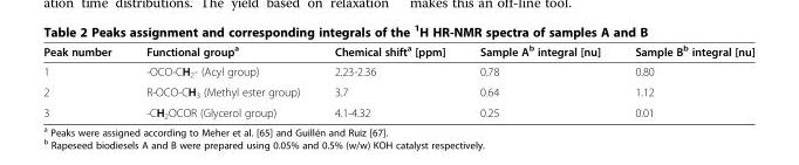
<table><thead><tr><td>Peak number</td><td>Functional group<sup>a</sup></td><td>Chemical shift<sup>a</sup> [ppm]</td><td>Sample A<sup>b</sup> integral [nu]</td><td>Sample B<sup>b</sup> integral [nu]</td></tr></thead><tbody><tr><td>1</td><td>-OCO-CH<sub>2</sub>- (Acyl group)</td><td>2.23-2.36</td><td>0.78</td><td>0.80</td></tr><tr><td>2</td><td>R-OCO-CH<sub>3</sub> (Methyl ester group)</td><td>3.7</td><td>0.64</td><td>1.12</td></tr><tr><td>3</td><td>-CH<sub>2</sub>OCOR (Glycerol group)</td><td>4.1-4.32</td><td>0.25</td><td>0.01</td></tr></tbody></table>